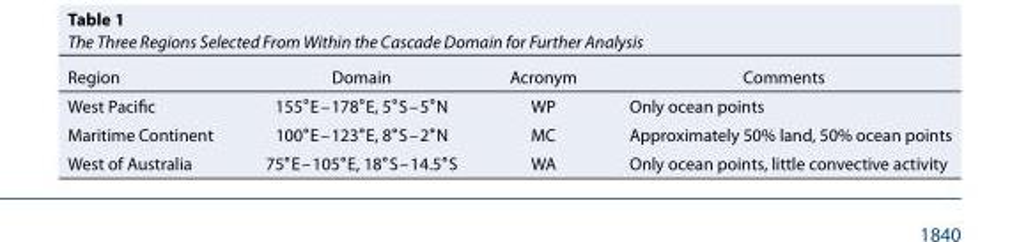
<table><thead><tr><td>Region</td><td>Domain</td><td>Acronym</td><td>Comments</td></tr></thead><tbody><tr><td>West Pacific</td><td>155<sup>∘</sup>E–178<sup>∘</sup>E, 5<sup>∘</sup>S–5<sup>∘</sup>N</td><td>WP</td><td>Only ocean points</td></tr><tr><td>Maritime Continent</td><td>100<sup>∘</sup>E–123<sup>∘</sup>E, 8<sup>∘</sup>S–2<sup>∘</sup>N</td><td>MC</td><td>Approximately 50% land, 50% ocean points</td></tr><tr><td>West of Australia</td><td>75<sup>∘</sup>E–105<sup>∘</sup>E, 18<sup>∘</sup>S–14.5<sup>∘</sup>S</td><td>WA</td><td>Only ocean points, little convective activity</td></tr></tbody></table>